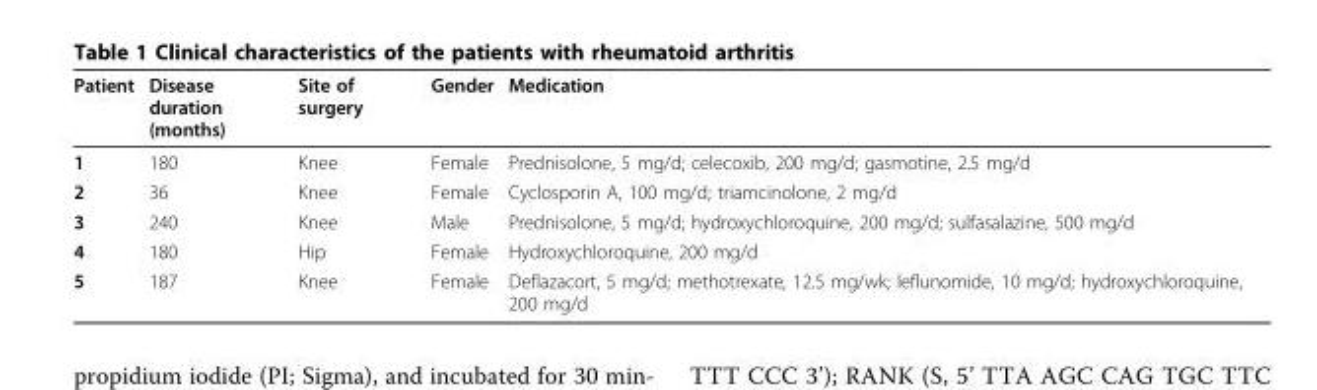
<table><thead><tr><td>Patient</td><td>Disease duration (months)</td><td>Site of surgery</td><td>Gender</td><td>Medication</td></tr></thead><tbody><tr><td>1</td><td>180</td><td>Knee</td><td>Female</td><td>Prednisolone, 5 mg/d; celecoxib, 200 mg/d; gasmotine, 2.5 mg/d</td></tr><tr><td>2</td><td>36</td><td>Knee</td><td>Female</td><td>Cyclosporin A, 100 mg/d; triamcinolone, 2 mg/d</td></tr><tr><td>3</td><td>240</td><td>Knee</td><td>Male</td><td>Prednisolone, 5 mg/d; hydroxychloroquine, 200 mg/d; sulfasalazine, 500 mg/d</td></tr><tr><td>4</td><td>180</td><td>Hip</td><td>Female</td><td>Hydroxychloroquine, 200 mg/d</td></tr><tr><td>5</td><td>187</td><td>Knee</td><td>Female</td><td>Deflazacort, 5 mg/d; methotrexate, 12.5 mg/wk; leflunomide, 10 mg/d; hydroxychloroquine, 200 mg/d</td></tr></tbody></table>